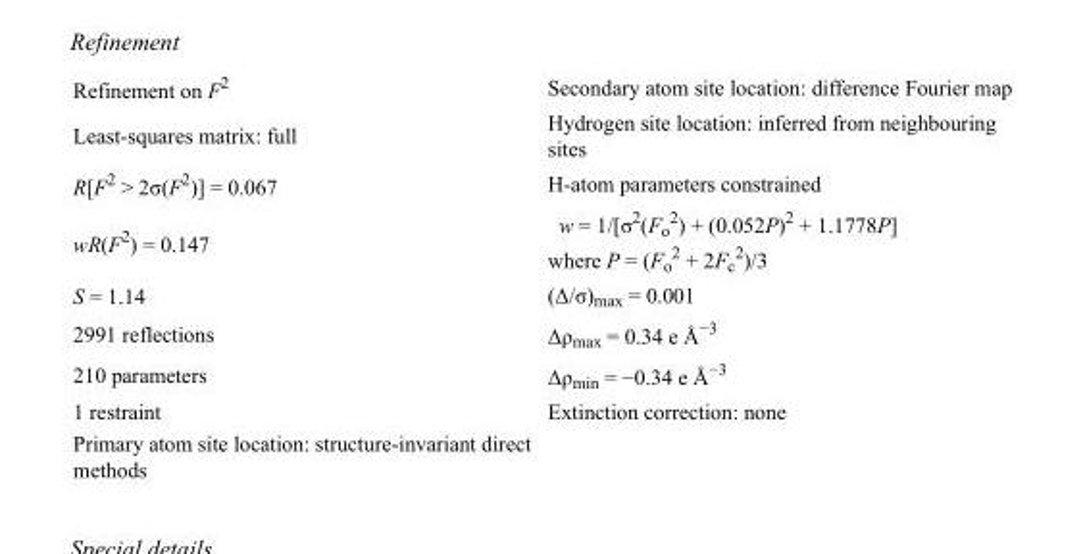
<table><tbody><tr><td>Refinement on F<sup>2</sup></td><td>Secondary atom site location: difference Fourier map</td></tr><tr><td>Least-squares matrix: full</td><td>Hydrogen site location: inferred from neighbouring sites</td></tr><tr><td>R[F<sup>2</sup> &gt; 2σ(F<sup>2</sup>)] = 0.067</td><td>H-atom parameters constrained</td></tr><tr><td>wR(F<sup>2</sup>) = 0.147</td><td>w = 1/[σ<sup>2</sup>(F<sub>o</sub> <sup>2</sup>) + (0.052P)<sup>2</sup> + 1.1778P] where P = (F<sub>o</sub> <sup>2</sup> + 2F<sub>c</sub> <sup>2</sup>)/3</td></tr><tr><td>S = 1.14</td><td>(Δ/σ)<sub>max</sub> = 0.001</td></tr><tr><td>2991 reflections</td><td>Δρ<sub>max</sub> = 0.34 e Å<sup>−3</sup></td></tr><tr><td>210 parameters</td><td>Δρ<sub>min</sub> = −0.34 e Å<sup>−3</sup></td></tr><tr><td>1 restraint</td><td>Extinction correction: none</td></tr><tr><td>Primary atom site location: structure-invariant direct methods</td><td></td></tr></tbody></table>